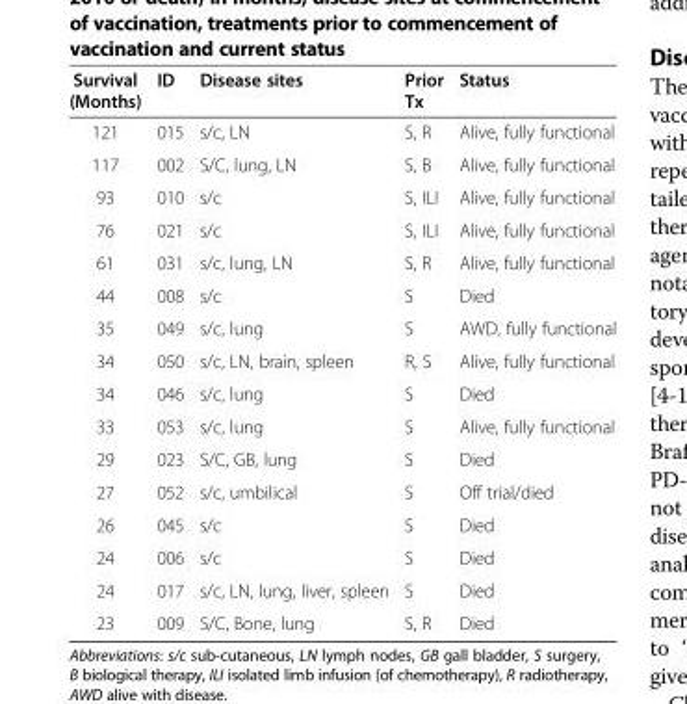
<table><thead><tr><td>Survival (Months)</td><td>ID</td><td>Disease sites</td><td>Prior Tx</td><td>Status</td></tr></thead><tbody><tr><td>121</td><td>015</td><td>s/c, LN</td><td>S, R</td><td>Alive, fully functional</td></tr><tr><td>117</td><td>002</td><td>S/C, lung, LN</td><td>S, B</td><td>Alive, fully functional</td></tr><tr><td>93</td><td>010</td><td>s/c</td><td>S, ILI</td><td>Alive, fully functional</td></tr><tr><td>76</td><td>021</td><td>s/c</td><td>S, ILI</td><td>Alive, fully functional</td></tr><tr><td>61</td><td>031</td><td>s/c, lung, LN</td><td>S, R</td><td>Alive, fully functional</td></tr><tr><td>44</td><td>008</td><td>s/c</td><td>S</td><td>Died</td></tr><tr><td>35</td><td>049</td><td>s/c, lung</td><td>S</td><td>AWD, fully functional</td></tr><tr><td>34</td><td>050</td><td>s/c, LN, brain, spleen</td><td>R, S</td><td>Alive, fully functional</td></tr><tr><td>34</td><td>046</td><td>s/c, lung</td><td>S</td><td>Died</td></tr><tr><td>33</td><td>053</td><td>s/c, lung</td><td>S</td><td>Alive, fully functional</td></tr><tr><td>29</td><td>023</td><td>S/C, GB, lung</td><td>S</td><td>Died</td></tr><tr><td>27</td><td>052</td><td>s/c, umbilical</td><td>S</td><td>Off trial/died</td></tr><tr><td>26</td><td>045</td><td>s/c</td><td>S</td><td>Died</td></tr><tr><td>24</td><td>006</td><td>s/c</td><td>S</td><td>Died</td></tr><tr><td>24</td><td>017</td><td>s/c, LN, lung, liver, spleen</td><td>S</td><td>Died</td></tr><tr><td>23</td><td>009</td><td>S/C, Bone, lung</td><td>S, R</td><td>Died</td></tr></tbody></table>